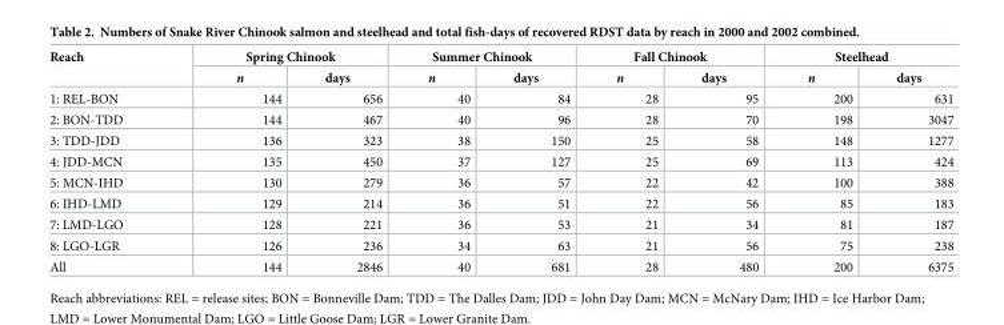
<table><thead><tr><td rowspan="2">Reach</td><td colspan="2">Spring Chinook</td><td colspan="2">Summer Chinook</td><td colspan="2">Fall Chinook</td><td colspan="2">Steelhead</td></tr><tr><td>n</td><td>days</td><td>n</td><td>days</td><td>n</td><td>days</td><td>n</td><td>days</td></tr></thead><tbody><tr><td>1: REL-BON</td><td>144</td><td>656</td><td>40</td><td>84</td><td>28</td><td>95</td><td>200</td><td>631</td></tr><tr><td>2: BON-TDD</td><td>144</td><td>467</td><td>40</td><td>96</td><td>28</td><td>70</td><td>198</td><td>3047</td></tr><tr><td>3: TDD-JDD</td><td>136</td><td>323</td><td>38</td><td>150</td><td>25</td><td>58</td><td>148</td><td>1277</td></tr><tr><td>4: JDD-MCN</td><td>135</td><td>450</td><td>37</td><td>127</td><td>25</td><td>69</td><td>113</td><td>424</td></tr><tr><td>5: MCN-IHD</td><td>130</td><td>279</td><td>36</td><td>57</td><td>22</td><td>42</td><td>100</td><td>388</td></tr><tr><td>6: IHD-LMD</td><td>129</td><td>214</td><td>36</td><td>51</td><td>22</td><td>56</td><td>85</td><td>183</td></tr><tr><td>7: LMD-LGO</td><td>128</td><td>221</td><td>36</td><td>53</td><td>21</td><td>34</td><td>81</td><td>187</td></tr><tr><td>8: LGO-LGR</td><td>126</td><td>236</td><td>34</td><td>63</td><td>21</td><td>56</td><td>75</td><td>238</td></tr><tr><td>All</td><td>144</td><td>2846</td><td>40</td><td>681</td><td>28</td><td>480</td><td>200</td><td>6375</td></tr></tbody></table>